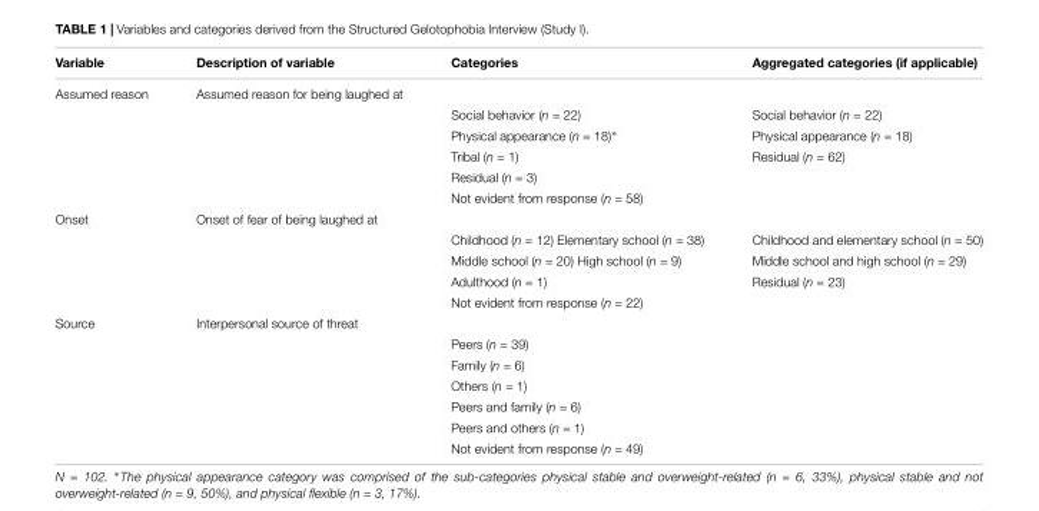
<table><thead><tr><td>Variable</td><td>Description of variable</td><td>Categories</td><td>Aggregated categories (if applicable)</td></tr></thead><tbody><tr><td rowspan="6">Assumed reason</td><td>Assumed reason for being laughed at</td><td></td><td></td></tr><tr><td></td><td>Social behavior (n = 22)</td><td>Social behavior (n = 22)</td></tr><tr><td></td><td>Physical appearance (n = 18)∗</td><td>Physical appearance (n = 18)</td></tr><tr><td></td><td>Tribal (n = 1)</td><td>Residual (n = 62)</td></tr><tr><td></td><td>Residual (n = 3)</td><td></td></tr><tr><td></td><td>Not evident from response (n = 58)</td><td></td></tr><tr><td rowspan="5">Onset</td><td>Onset of fear of being laughed at</td><td></td><td></td></tr><tr><td></td><td>Childhood (n = 12) Elementary school (n = 38)</td><td>Childhood and elementary school (n = 50)</td></tr><tr><td></td><td>Middle school (n = 20) High school (n = 9)</td><td>Middle school and high school (n = 29)</td></tr><tr><td></td><td>Adulthood (n = 1)</td><td>Residual (n = 23)</td></tr><tr><td></td><td>Not evident from response (n = 22)</td><td></td></tr><tr><td rowspan="7">Source</td><td>Interpersonal source of threat</td><td></td><td></td></tr><tr><td></td><td>Peers (n = 39)</td><td></td></tr><tr><td></td><td>Family (n = 6)</td><td></td></tr><tr><td></td><td>Others (n = 1)</td><td></td></tr><tr><td></td><td>Peers and family (n = 6)</td><td></td></tr><tr><td></td><td>Peers and others (n = 1)</td><td></td></tr><tr><td></td><td>Not evident from response (n = 49)</td><td></td></tr></tbody></table>